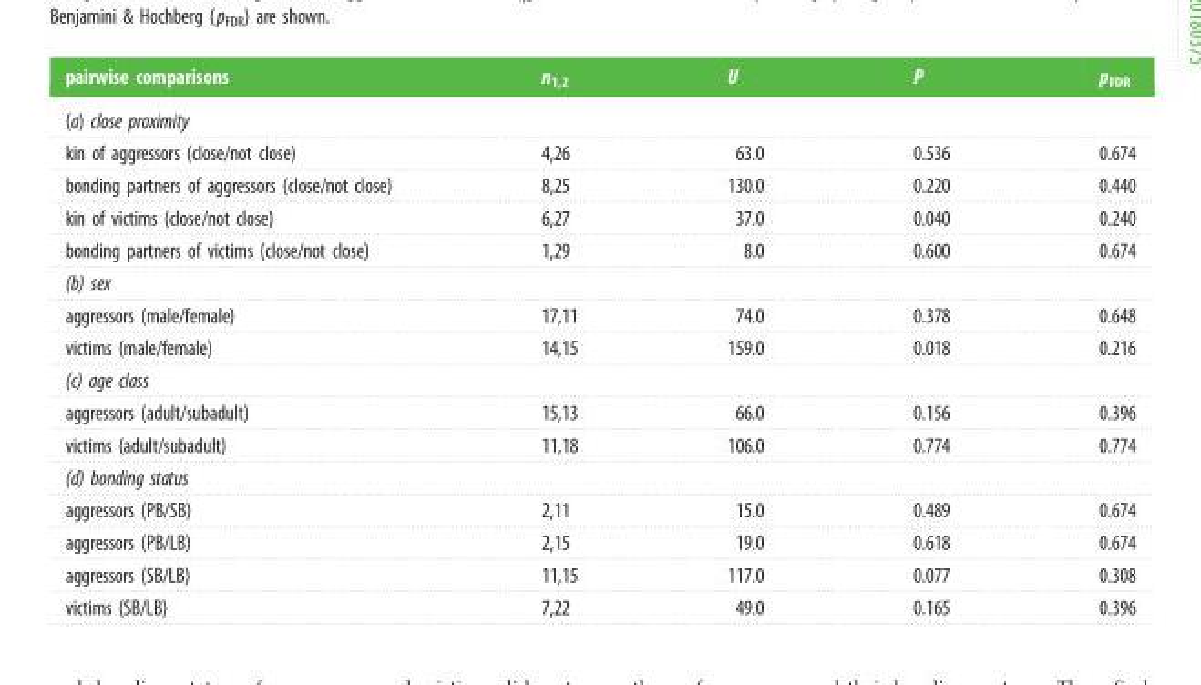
<table><thead><tr><td>pairwise comparisons</td><td>n<sub>1,2</sub></td><td>U</td><td>P</td><td>p<sub>FDR</sub></td></tr></thead><tbody><tr><td colspan="5">(a) close proximity</td></tr><tr><td>kin of aggressors (close/not close)</td><td>4,26</td><td>63.0</td><td>0.536</td><td>0.674</td></tr><tr><td>bonding partners of aggressors (close/not close)</td><td>8,25</td><td>130.0</td><td>0.220</td><td>0.440</td></tr><tr><td>kin of victims (close/not close)</td><td>6,27</td><td>37.0</td><td>0.040</td><td>0.240</td></tr><tr><td>bonding partners of victims (close/not close)</td><td>1,29</td><td>8.0</td><td>0.600</td><td>0.674</td></tr><tr><td colspan="5">(b) sex</td></tr><tr><td>aggressors (male/female)</td><td>17,11</td><td>74.0</td><td>0.378</td><td>0.648</td></tr><tr><td>victims (male/female)</td><td>14,15</td><td>159.0</td><td>0.018</td><td>0.216</td></tr><tr><td colspan="5">(c) age class</td></tr><tr><td>aggressors (adult/subadult)</td><td>15,13</td><td>66.0</td><td>0.156</td><td>0.396</td></tr><tr><td>victims (adult/subadult)</td><td>11,18</td><td>106.0</td><td>0.774</td><td>0.774</td></tr><tr><td colspan="5">(d) bonding status</td></tr><tr><td>aggressors (PB/SB)</td><td>2,11</td><td>15.0</td><td>0.489</td><td>0.674</td></tr><tr><td>aggressors (PB/LB)</td><td>2,15</td><td>19.0</td><td>0.618</td><td>0.674</td></tr><tr><td>aggressors (SB/LB)</td><td>11,15</td><td>117.0</td><td>0.077</td><td>0.308</td></tr><tr><td>victims (SB/LB)</td><td>7,22</td><td>49.0</td><td>0.165</td><td>0.396</td></tr></tbody></table>